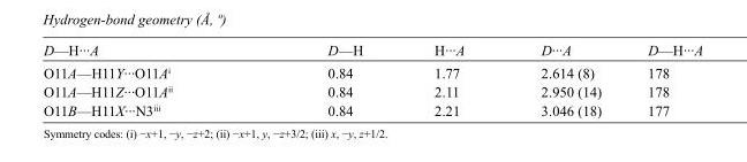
<table><tbody><tr><td>D—H···A</td><td>D—H</td><td>H···A</td><td>D···A</td><td>D—H···A</td></tr><tr><td>O11A—H11Y···O11A<sup>i</sup></td><td>0.84</td><td>1.77</td><td>2.614 (8)</td><td>178</td></tr><tr><td>O11A—H11Z···O11A<sup>ii</sup></td><td>0.84</td><td>2.11</td><td>2.950 (14)</td><td>178</td></tr><tr><td>O11B—H11X···N3<sup>iii</sup></td><td>0.84</td><td>2.21</td><td>3.046 (18)</td><td>177</td></tr></tbody></table>